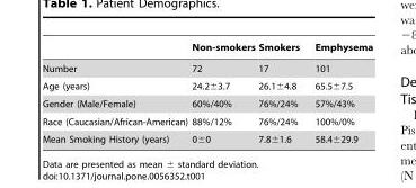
<table><thead><tr><td></td><td>Non-smokers</td><td>Smokers</td><td>Emphysema</td></tr></thead><tbody><tr><td>Number</td><td>72</td><td>17</td><td>101</td></tr><tr><td>Age (years)</td><td>24.2±3.7</td><td>26.1±4.8</td><td>65.5±7.5</td></tr><tr><td>Gender (Male/Female)</td><td>60%/40%</td><td>76%/24%</td><td>57%/43%</td></tr><tr><td>Race (Caucasian/African-American)</td><td>88%/12%</td><td>76%/24%</td><td>100%/0%</td></tr><tr><td>Mean Smoking History (years)</td><td>0±0</td><td>7.8±1.6</td><td>58.4±29.9</td></tr></tbody></table>